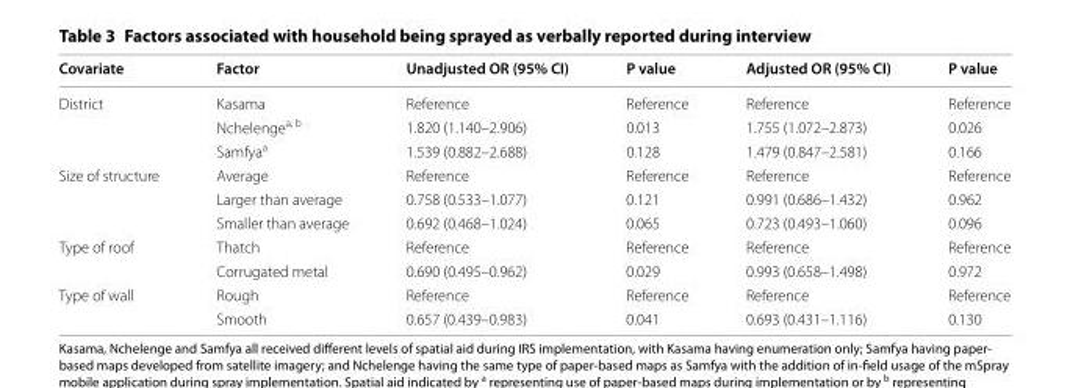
<table><thead><tr><td>Covariate</td><td>Factor</td><td>Unadjusted OR (95% CI)</td><td>P value</td><td>Adjusted OR (95% CI)</td><td>P value</td></tr></thead><tbody><tr><td rowspan="3">District</td><td>Kasama</td><td>Reference</td><td>Reference</td><td>Reference</td><td>Reference</td></tr><tr><td>Nchelenge<sup>a, b</sup></td><td>1.820 (1.140–2.906)</td><td>0.013</td><td>1.755 (1.072–2.873)</td><td>0.026</td></tr><tr><td>Samfya<sup>a</sup></td><td>1.539 (0.882–2.688)</td><td>0.128</td><td>1.479 (0.847–2.581)</td><td>0.166</td></tr><tr><td rowspan="3">Size of structure</td><td>Average</td><td>Reference</td><td>Reference</td><td>Reference</td><td>Reference</td></tr><tr><td>Larger than average</td><td>0.758 (0.533–1.077)</td><td>0.121</td><td>0.991 (0.686–1.432)</td><td>0.962</td></tr><tr><td>Smaller than average</td><td>0.692 (0.468–1.024)</td><td>0.065</td><td>0.723 (0.493–1.060)</td><td>0.096</td></tr><tr><td rowspan="2">Type of roof</td><td>Thatch</td><td>Reference</td><td>Reference</td><td>Reference</td><td>Reference</td></tr><tr><td>Corrugated metal</td><td>0.690 (0.495–0.962)</td><td>0.029</td><td>0.993 (0.658–1.498)</td><td>0.972</td></tr><tr><td rowspan="2">Type of wall</td><td>Rough</td><td>Reference</td><td>Reference</td><td>Reference</td><td>Reference</td></tr><tr><td>Smooth</td><td>0.657 (0.439–0.983)</td><td>0.041</td><td>0.693 (0.431–1.116)</td><td>0.130</td></tr></tbody></table>